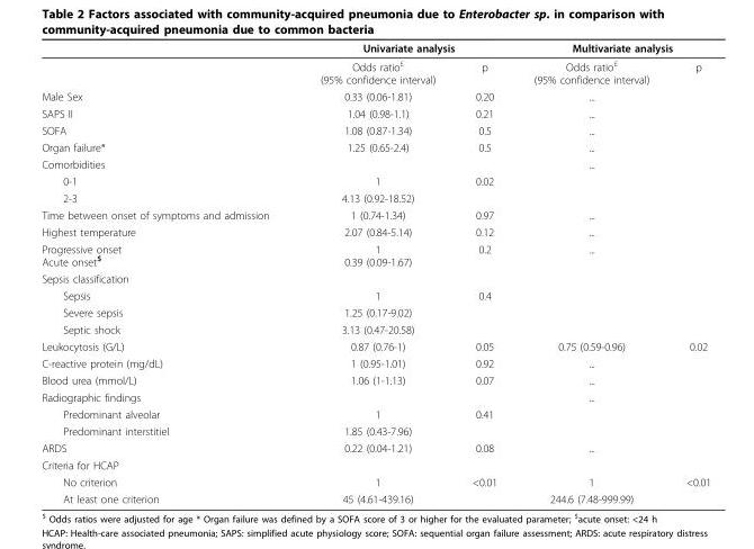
<table><thead><tr><td rowspan="2"></td><td colspan="2">Univariate analysis</td><td colspan="2">Multivariate analysis</td></tr><tr><td>Odds ratio<sup>£</sup> (95% confidence interval)</td><td>p</td><td>Odds ratio<sup>£</sup> (95% confidence interval)</td><td>p</td></tr></thead><tbody><tr><td>Male Sex</td><td>0.33 (0.06-1.81)</td><td>0.20</td><td>...</td><td></td></tr><tr><td>SAPS II</td><td>1.04 (0.98-1.1)</td><td>0.21</td><td>...</td><td></td></tr><tr><td>SOFA</td><td>1.08 (0.87-1.34)</td><td>0.5</td><td>...</td><td></td></tr><tr><td>Organ failure*</td><td>1.25 (0.65-2.4)</td><td>0.5</td><td>...</td><td></td></tr><tr><td>Comorbidities</td><td></td><td></td><td>...</td><td></td></tr><tr><td>0-1</td><td>1</td><td>0.02</td><td></td><td></td></tr><tr><td>2-3</td><td>4.13 (0.92-18.52)</td><td></td><td></td><td></td></tr><tr><td>Time between onset of symptoms and admission</td><td>1 (0.74-1.34)</td><td>0.97</td><td>...</td><td></td></tr><tr><td>Highest temperature</td><td>2.07 (0.84-5.14)</td><td>0.12</td><td>...</td><td></td></tr><tr><td>Progressive onset Acute onset<sup>$</sup></td><td>1 0.39 (0.09-1.67)</td><td>0.2</td><td>...</td><td></td></tr><tr><td colspan="5">Sepsis classification</td></tr><tr><td>Sepsis</td><td>1</td><td>0.4</td><td></td><td></td></tr><tr><td>Severe sepsis</td><td>1.25 (0.17-9.02)</td><td></td><td></td><td></td></tr><tr><td>Septic shock</td><td>3.13 (0.47-20.58)</td><td></td><td></td><td></td></tr><tr><td>Leukocytosis (G/L)</td><td>0.87 (0.76-1)</td><td>0.05</td><td>0.75 (0.59-0.96)</td><td>0.02</td></tr><tr><td>C-reactive protein (mg/dL)</td><td>1 (0.95-1.01)</td><td>0.92</td><td>...</td><td></td></tr><tr><td>Blood urea (mmol/L)</td><td>1.06 (1-1.13)</td><td>0.07</td><td>...</td><td></td></tr><tr><td>Radiographic findings</td><td></td><td></td><td>...</td><td></td></tr><tr><td>Predominant alveolar</td><td>1</td><td>0.41</td><td></td><td></td></tr><tr><td>Predominant interstitiel</td><td>1.85 (0.43-7.96)</td><td></td><td></td><td></td></tr><tr><td>ARDS</td><td>0.22 (0.04-1.21)</td><td>0.08</td><td>...</td><td></td></tr><tr><td colspan="5">Criteria for HCAP</td></tr><tr><td>No criterion</td><td>1</td><td>&lt;0.01</td><td>1</td><td>&lt;0.01</td></tr><tr><td>At least one criterion</td><td>45 (4.61-439.16)</td><td></td><td>244.6 (7.48-999.99)</td><td></td></tr></tbody></table>